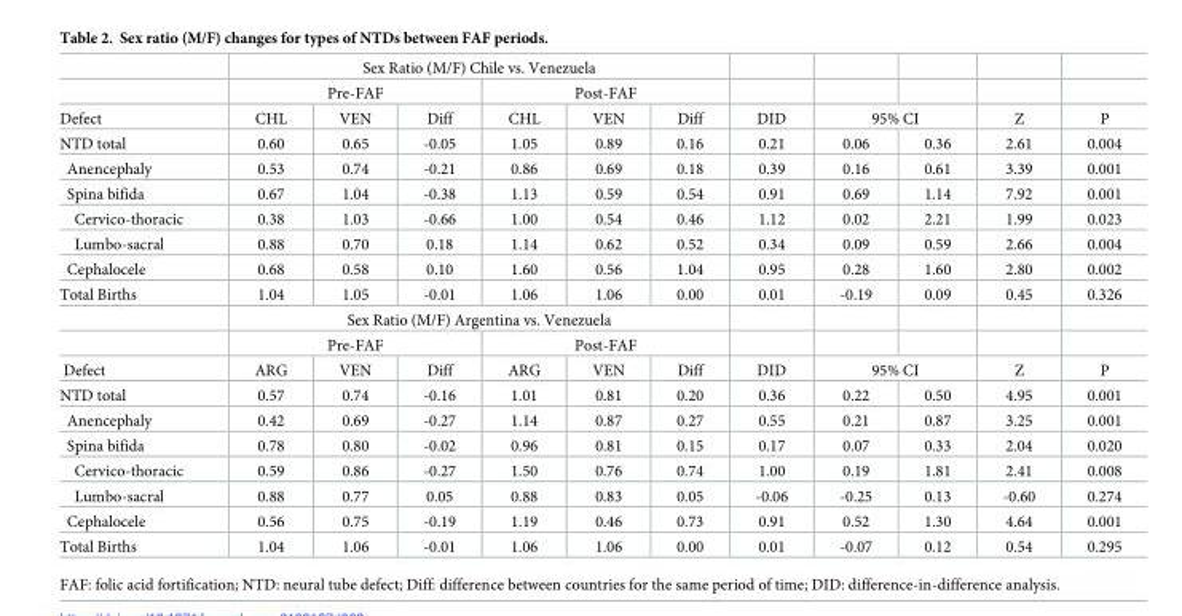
<table><thead><tr><td rowspan="3">Defect</td><td colspan="6">Sex Ratio (M/F) Chile vs. Venezuela</td><td rowspan="3">DID</td><td rowspan="2"></td><td rowspan="2"></td><td rowspan="3">Z</td><td rowspan="3">P</td></tr><tr><td colspan="3">Pre-FAF</td><td colspan="3">Post-FAF</td></tr><tr><td>CHL</td><td>VEN</td><td>Diff</td><td>CHL</td><td>VEN</td><td>Diff</td><td colspan="2">95% CI</td></tr></thead><tbody><tr><td>NTD total</td><td>0.60</td><td>0.65</td><td>-0.05</td><td>1.05</td><td>0.89</td><td>0.16</td><td>0.21</td><td>0.06</td><td>0.36</td><td>2.61</td><td>0.004</td></tr><tr><td>Anencephaly</td><td>0.53</td><td>0.74</td><td>-0.21</td><td>0.86</td><td>0.69</td><td>0.18</td><td>0.39</td><td>0.16</td><td>0.61</td><td>3.39</td><td>0.001</td></tr><tr><td>Spina bifida</td><td>0.67</td><td>1.04</td><td>-0.38</td><td>1.13</td><td>0.59</td><td>0.54</td><td>0.91</td><td>0.69</td><td>1.14</td><td>7.92</td><td>0.001</td></tr><tr><td>Cervico-thoracic</td><td>0.38</td><td>1.03</td><td>-0.66</td><td>1.00</td><td>0.54</td><td>0.46</td><td>1.12</td><td>0.02</td><td>2.21</td><td>1.99</td><td>0.023</td></tr><tr><td>Lumbo-sacral</td><td>0.88</td><td>0.70</td><td>0.18</td><td>1.14</td><td>0.62</td><td>0.52</td><td>0.34</td><td>0.09</td><td>0.59</td><td>2.66</td><td>0.004</td></tr><tr><td>Cephalocele</td><td>0.68</td><td>0.58</td><td>0.10</td><td>1.60</td><td>0.56</td><td>1.04</td><td>0.95</td><td>0.28</td><td>1.60</td><td>2.80</td><td>0.002</td></tr><tr><td rowspan="3">Total Births</td><td>1.04</td><td>1.05</td><td>-0.01</td><td>1.06</td><td>1.06</td><td>0.00</td><td>0.01</td><td>-0.19</td><td>0.09</td><td>0.45</td><td>0.326</td></tr><tr><td colspan="6">Sex Ratio (M/F) Argentina vs. Venezuela</td><td></td><td></td><td></td><td></td><td></td></tr><tr><td colspan="3">Pre-FAF</td><td colspan="3">Post-FAF</td><td></td><td></td><td></td><td></td><td></td></tr><tr><td>Defect</td><td>ARG</td><td>VEN</td><td>Diff</td><td>ARG</td><td>VEN</td><td>Diff</td><td>DID</td><td colspan="2">95% CI</td><td>Z</td><td>P</td></tr><tr><td>NTD total</td><td>0.57</td><td>0.74</td><td>-0.16</td><td>1.01</td><td>0.81</td><td>0.20</td><td>0.36</td><td>0.22</td><td>0.50</td><td>4.95</td><td>0.001</td></tr><tr><td>Anencephaly</td><td>0.42</td><td>0.69</td><td>-0.27</td><td>1.14</td><td>0.87</td><td>0.27</td><td>0.55</td><td>0.21</td><td>0.87</td><td>3.25</td><td>0.001</td></tr><tr><td>Spina bifida</td><td>0.78</td><td>0.80</td><td>-0.02</td><td>0.96</td><td>0.81</td><td>0.15</td><td>0.17</td><td>0.07</td><td>0.33</td><td>2.04</td><td>0.020</td></tr><tr><td>Cervico-thoracic</td><td>0.59</td><td>0.86</td><td>-0.27</td><td>1.50</td><td>0.76</td><td>0.74</td><td>1.00</td><td>0.19</td><td>1.81</td><td>2.41</td><td>0.008</td></tr><tr><td>Lumbo-sacral</td><td>0.88</td><td>0.77</td><td>0.05</td><td>0.88</td><td>0.83</td><td>0.05</td><td>-0.06</td><td>-0.25</td><td>0.13</td><td>-0.60</td><td>0.274</td></tr><tr><td>Cephalocele</td><td>0.56</td><td>0.75</td><td>-0.19</td><td>1.19</td><td>0.46</td><td>0.73</td><td>0.91</td><td>0.52</td><td>1.30</td><td>4.64</td><td>0.001</td></tr><tr><td>Total Births</td><td>1.04</td><td>1.06</td><td>-0.01</td><td>1.06</td><td>1.06</td><td>0.00</td><td>0.01</td><td>-0.07</td><td>0.12</td><td>0.54</td><td>0.295</td></tr></tbody></table>